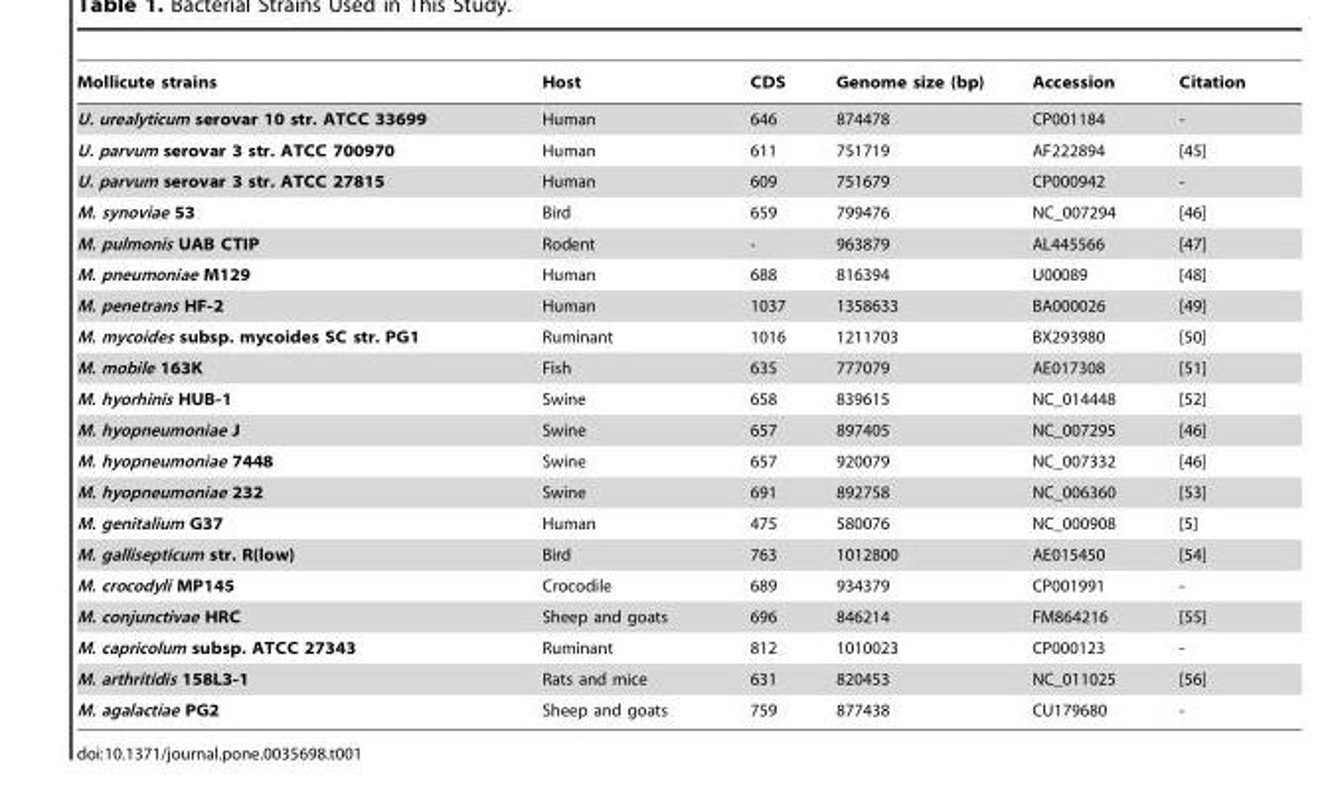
<table><thead><tr><td>Mollicute strains</td><td>Host</td><td>CDS</td><td>Genome size (bp)</td><td>Accession</td><td>Citation</td></tr></thead><tbody><tr><td>U. urealyticum serovar 10 str. ATCC 33699</td><td>Human</td><td>646</td><td>874478</td><td>CP001184</td><td>-</td></tr><tr><td>U. parvum serovar 3 str. ATCC 700970</td><td>Human</td><td>611</td><td>751719</td><td>AF222894</td><td>[45]</td></tr><tr><td>U. parvum serovar 3 str. ATCC 27815</td><td>Human</td><td>609</td><td>751679</td><td>CP000942</td><td>-</td></tr><tr><td>M. synoviae 53</td><td>Bird</td><td>659</td><td>799476</td><td>NC_007294</td><td>[46]</td></tr><tr><td>M. pulmonis UAB CTIP</td><td>Rodent</td><td>-</td><td>963879</td><td>AL445566</td><td>[47]</td></tr><tr><td>M. pneumoniae M129</td><td>Human</td><td>688</td><td>816394</td><td>U00089</td><td>[48]</td></tr><tr><td>M. penetrans HF-2</td><td>Human</td><td>1037</td><td>1358633</td><td>BA000026</td><td>[49]</td></tr><tr><td>M. mycoides subsp. mycoides SC str. PG1</td><td>Ruminant</td><td>1016</td><td>1211703</td><td>BX293980</td><td>[50]</td></tr><tr><td>M. mobile 163K</td><td>Fish</td><td>635</td><td>777079</td><td>AE017308</td><td>[51]</td></tr><tr><td>M. hyorhinis HUB-1</td><td>Swine</td><td>658</td><td>839615</td><td>NC_014448</td><td>[52]</td></tr><tr><td>M. hyopneumoniae J</td><td>Swine</td><td>657</td><td>897405</td><td>NC_007295</td><td>[46]</td></tr><tr><td>M. hyopneumoniae 7448</td><td>Swine</td><td>657</td><td>920079</td><td>NC_007332</td><td>[46]</td></tr><tr><td>M. hyopneumoniae 232</td><td>Swine</td><td>691</td><td>892758</td><td>NC_006360</td><td>[53]</td></tr><tr><td>M. genitalium G37</td><td>Human</td><td>475</td><td>580076</td><td>NC_000908</td><td>[5]</td></tr><tr><td>M. gallisepticum str. R(low)</td><td>Bird</td><td>763</td><td>1012800</td><td>AE015450</td><td>[54]</td></tr><tr><td>M. crocodyli MP145</td><td>Crocodile</td><td>689</td><td>934379</td><td>CP001991</td><td>-</td></tr><tr><td>M. conjunctivae HRC</td><td>Sheep and goats</td><td>696</td><td>846214</td><td>FM864216</td><td>[55]</td></tr><tr><td>M. capricolum subsp. ATCC 27343</td><td>Ruminant</td><td>812</td><td>1010023</td><td>CP000123</td><td>-</td></tr><tr><td>M. arthritidis 158L3-1</td><td>Rats and mice</td><td>631</td><td>820453</td><td>NC_011025</td><td>[56]</td></tr><tr><td>M. agalactiae PG2</td><td>Sheep and goats</td><td>759</td><td>877438</td><td>CU179680</td><td>-</td></tr></tbody></table>